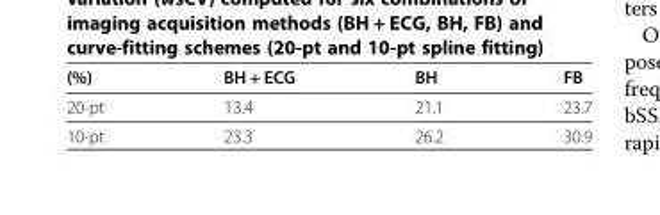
<table><thead><tr><td>(%)</td><td>BH + ECG</td><td>BH</td><td>FB</td></tr></thead><tbody><tr><td>20-pt</td><td>13.4</td><td>21.1</td><td>23.7</td></tr><tr><td>10-pt</td><td>23.3</td><td>26.2</td><td>30.9</td></tr></tbody></table>